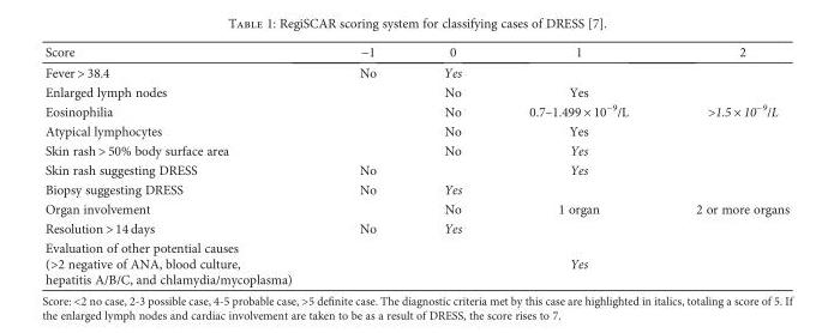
<table><thead><tr><td>Score</td><td>−1</td><td>0</td><td>1</td><td>2</td></tr></thead><tbody><tr><td>Fever &gt; 38.4</td><td>No</td><td>Yes</td><td></td><td></td></tr><tr><td>Enlarged lymph nodes</td><td></td><td>No</td><td>Yes</td><td></td></tr><tr><td>Eosinophilia</td><td></td><td>No</td><td>0.7–1.499 × 10<sup>−9</sup>/L</td><td>&gt;1.5 × 10<sup>−9</sup>/L</td></tr><tr><td>Atypical lymphocytes</td><td></td><td>No</td><td>Yes</td><td></td></tr><tr><td>Skin rash &gt; 50% body surface area</td><td></td><td>No</td><td>Yes</td><td></td></tr><tr><td>Skin rash suggesting DRESS</td><td>No</td><td></td><td>Yes</td><td></td></tr><tr><td>Biopsy suggesting DRESS</td><td>No</td><td>Yes</td><td></td><td></td></tr><tr><td>Organ involvement</td><td></td><td>No</td><td>1 organ</td><td>2 or more organs</td></tr><tr><td>Resolution &gt; 14 days</td><td>No</td><td>Yes</td><td></td><td></td></tr><tr><td>Evaluation of other potential causes (&gt;2 negative of ANA, blood culture, hepatitis A/B/C, and chlamydia/mycoplasma)</td><td></td><td></td><td>Yes</td><td></td></tr></tbody></table>